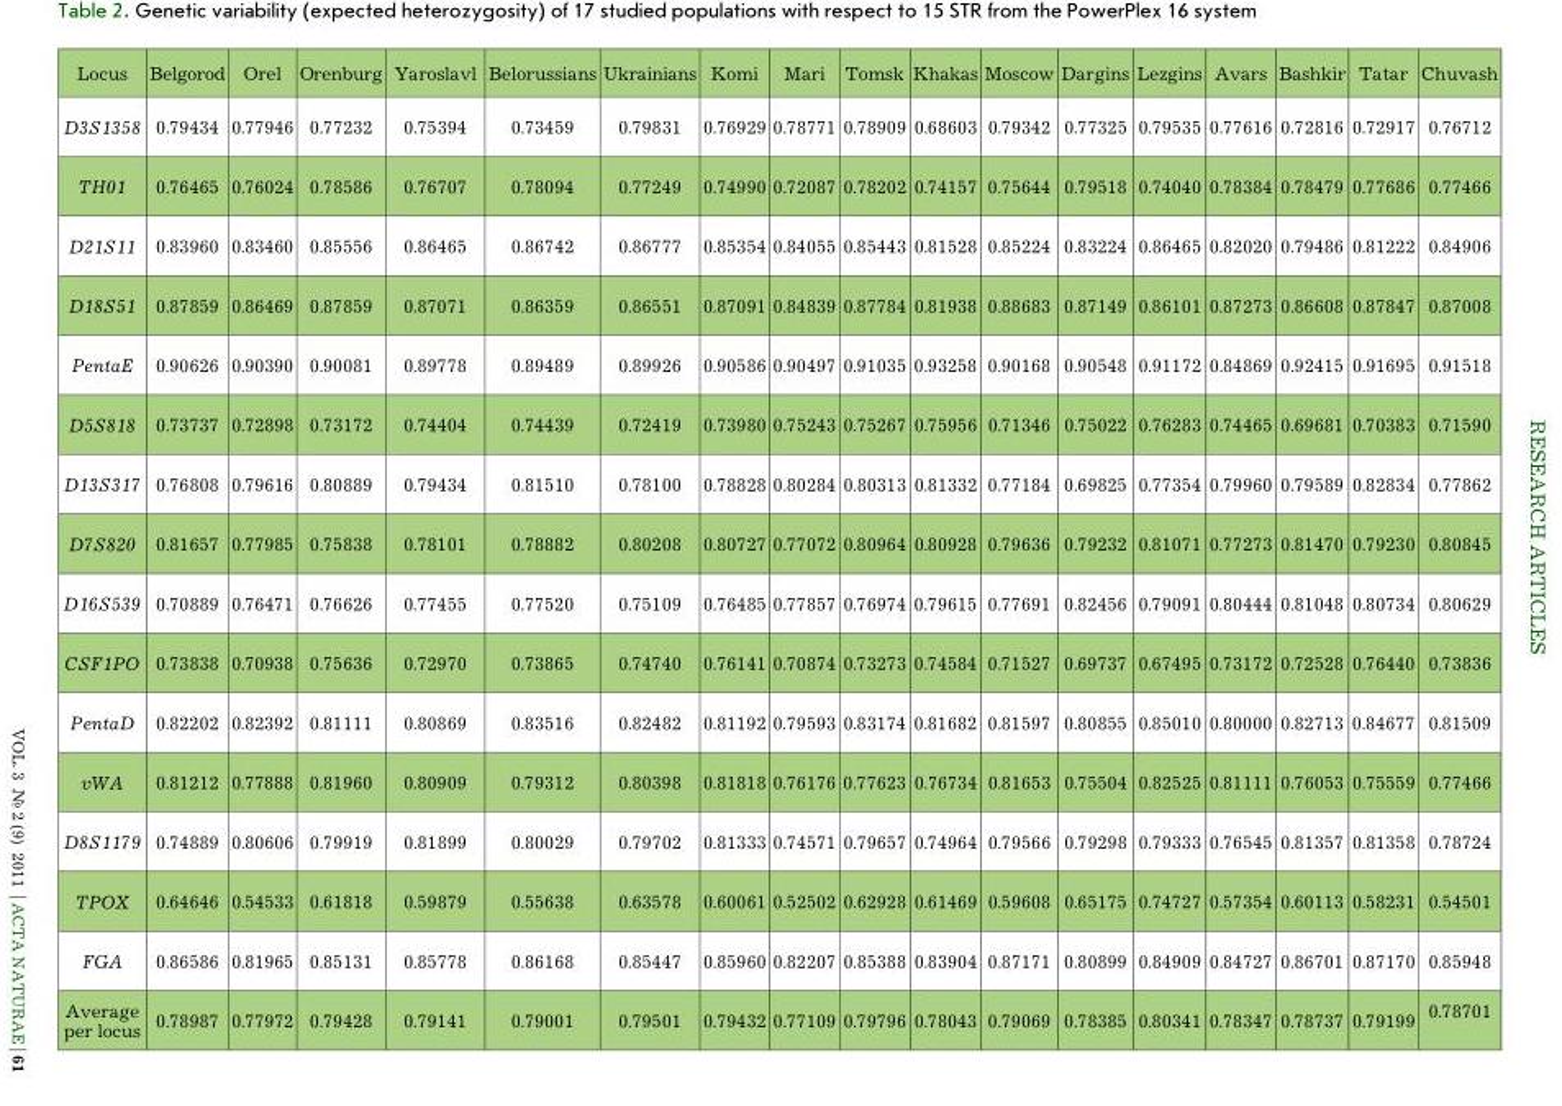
<table><thead><tr><td>Locus</td><td>Belgorod</td><td>Orel</td><td>Orenburg</td><td>Yaroslavl</td><td>Belorussians</td><td>Ukrainians</td><td>Komi</td><td>Mari</td><td>Tomsk</td><td>Khakas</td><td>Moscow</td><td>Dargins</td><td>Lezgins</td><td>Avars</td><td>Bashkir</td><td>Tatar</td><td>Chuvash</td></tr></thead><tbody><tr><td>D3S1358</td><td>0.79434</td><td>0.77946</td><td>0.77232</td><td>0.75394</td><td>0.73459</td><td>0.79831</td><td>0.76929</td><td>0.78771</td><td>0.78909</td><td>0.68603</td><td>0.79342</td><td>0.77325</td><td>0.79535</td><td>0.77616</td><td>0.72816</td><td>0.72917</td><td>0.76712</td></tr><tr><td>TH01</td><td>0.76465</td><td>0.76024</td><td>0.78586</td><td>0.76707</td><td>0.78094</td><td>0.77249</td><td>0.74990</td><td>0.72087</td><td>0.78202</td><td>0.74157</td><td>0.75644</td><td>0.79518</td><td>0.74040</td><td>0.78384</td><td>0.78479</td><td>0.77686</td><td>0.77466</td></tr><tr><td>D21S11</td><td>0.83960</td><td>0.83460</td><td>0.85556</td><td>0.86465</td><td>0.86742</td><td>0.86777</td><td>0.85354</td><td>0.84055</td><td>0.85443</td><td>0.81528</td><td>0.85224</td><td>0.83224</td><td>0.86465</td><td>0.82020</td><td>0.79486</td><td>0.81222</td><td>0.84906</td></tr><tr><td>D18S51</td><td>0.87859</td><td>0.86469</td><td>0.87859</td><td>0.87071</td><td>0.86359</td><td>0.86551</td><td>0.87091</td><td>0.84839</td><td>0.87784</td><td>0.81938</td><td>0.88683</td><td>0.87149</td><td>0.86101</td><td>0.87273</td><td>0.86608</td><td>0.87847</td><td>0.87008</td></tr><tr><td>PentaE</td><td>0.90626</td><td>0.90390</td><td>0.90081</td><td>0.89778</td><td>0.89489</td><td>0.89926</td><td>0.90586</td><td>0.90497</td><td>0.91035</td><td>0.93258</td><td>0.90168</td><td>0.90548</td><td>0.91172</td><td>0.84869</td><td>0.92415</td><td>0.91695</td><td>0.91518</td></tr><tr><td>D5S818</td><td>0.73737</td><td>0.72898</td><td>0.73172</td><td>0.74404</td><td>0.74439</td><td>0.72419</td><td>0.73980</td><td>0.75243</td><td>0.75267</td><td>0.75956</td><td>0.71346</td><td>0.75022</td><td>0.76283</td><td>0.74465</td><td>0.69681</td><td>0.70383</td><td>0.71590</td></tr><tr><td>D13S317</td><td>0.76808</td><td>0.79616</td><td>0.80889</td><td>0.79434</td><td>0.81510</td><td>0.78100</td><td>0.78828</td><td>0.80284</td><td>0.80313</td><td>0.81332</td><td>0.77184</td><td>0.69825</td><td>0.77354</td><td>0.79960</td><td>0.79589</td><td>0.82834</td><td>0.77862</td></tr><tr><td>D7S820</td><td>0.81657</td><td>0.77985</td><td>0.75838</td><td>0.78101</td><td>0.78882</td><td>0.80208</td><td>0.80727</td><td>0.77072</td><td>0.80964</td><td>0.80928</td><td>0.79636</td><td>0.79232</td><td>0.81071</td><td>0.77273</td><td>0.81470</td><td>0.79230</td><td>0.80845</td></tr><tr><td>D16S539</td><td>0.70889</td><td>0.76471</td><td>0.76626</td><td>0.77455</td><td>0.77520</td><td>0.75109</td><td>0.76485</td><td>0.77857</td><td>0.76974</td><td>0.79615</td><td>0.77691</td><td>0.82456</td><td>0.79091</td><td>0.80444</td><td>0.81048</td><td>0.80734</td><td>0.80629</td></tr><tr><td>CSF1PO</td><td>0.73838</td><td>0.70938</td><td>0.75636</td><td>0.72970</td><td>0.73865</td><td>0.74740</td><td>0.76141</td><td>0.70874</td><td>0.73273</td><td>0.74584</td><td>0.71527</td><td>0.69737</td><td>0.67495</td><td>0.73172</td><td>0.72528</td><td>0.76440</td><td>0.73836</td></tr><tr><td>PentaD</td><td>0.82202</td><td>0.82392</td><td>0.81111</td><td>0.80869</td><td>0.83516</td><td>0.82482</td><td>0.81192</td><td>0.79593</td><td>0.83174</td><td>0.81682</td><td>0.81597</td><td>0.80855</td><td>0.85010</td><td>0.80000</td><td>0.82713</td><td>0.84677</td><td>0.81509</td></tr><tr><td>vWA</td><td>0.81212</td><td>0.77888</td><td>0.81960</td><td>0.80909</td><td>0.79312</td><td>0.80398</td><td>0.81818</td><td>0.76176</td><td>0.77623</td><td>0.76734</td><td>0.81653</td><td>0.75504</td><td>0.82525</td><td>0.81111</td><td>0.76053</td><td>0.75559</td><td>0.77466</td></tr><tr><td>D8S1179</td><td>0.74889</td><td>0.80606</td><td>0.79919</td><td>0.81899</td><td>0.80029</td><td>0.79702</td><td>0.81333</td><td>0.74571</td><td>0.79657</td><td>0.74964</td><td>0.79566</td><td>0.79298</td><td>0.79333</td><td>0.76545</td><td>0.81357</td><td>0.81358</td><td>0.78724</td></tr><tr><td>TPOX</td><td>0.64646</td><td>0.54533</td><td>0.61818</td><td>0.59879</td><td>0.55638</td><td>0.63578</td><td>0.60061</td><td>0.52502</td><td>0.62928</td><td>0.61469</td><td>0.59608</td><td>0.65175</td><td>0.74727</td><td>0.57354</td><td>0.60113</td><td>0.58231</td><td>0.54501</td></tr><tr><td>FGA</td><td>0.86586</td><td>0.81965</td><td>0.85131</td><td>0.85778</td><td>0.86168</td><td>0.85447</td><td>0.85960</td><td>0.82207</td><td>0.85388</td><td>0.83904</td><td>0.87171</td><td>0.80899</td><td>0.84909</td><td>0.84727</td><td>0.86701</td><td>0.87170</td><td>0.85948</td></tr><tr><td>Average per locus</td><td>0.78987</td><td>0.77972</td><td>0.79428</td><td>0.79141</td><td>0.79001</td><td>0.79501</td><td>0.79432</td><td>0.77109</td><td>0.79796</td><td>0.78043</td><td>0.79069</td><td>0.78385</td><td>0.80341</td><td>0.78347</td><td>0.78737</td><td>0.79199</td><td>0.78701</td></tr></tbody></table>